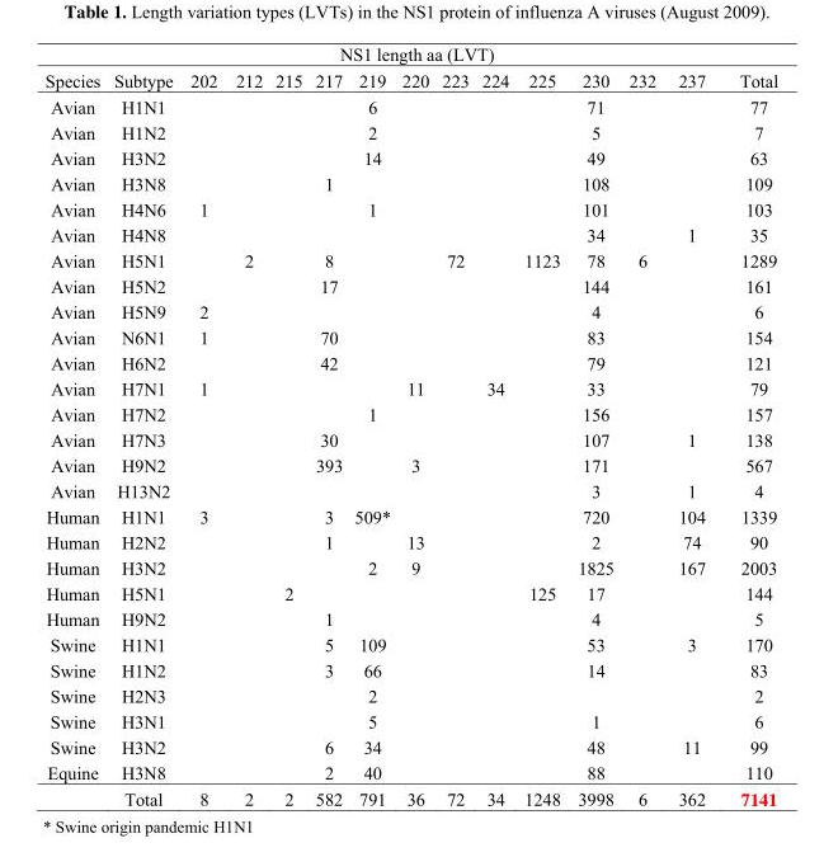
<table><thead><tr><td colspan="15">NS1 length aa (LVT)</td></tr><tr><td>Species</td><td>Subtype</td><td>202</td><td>212</td><td>215</td><td>217</td><td>219</td><td>220</td><td>223</td><td>224</td><td>225</td><td>230</td><td>232</td><td>237</td><td>Total</td></tr></thead><tbody><tr><td>Avian</td><td>H1N1</td><td></td><td></td><td></td><td></td><td>6</td><td></td><td></td><td></td><td></td><td>71</td><td></td><td></td><td>77</td></tr><tr><td>Avian</td><td>H1N2</td><td></td><td></td><td></td><td></td><td>2</td><td></td><td></td><td></td><td></td><td>5</td><td></td><td></td><td>7</td></tr><tr><td>Avian</td><td>H3N2</td><td></td><td></td><td></td><td></td><td>14</td><td></td><td></td><td></td><td></td><td>49</td><td></td><td></td><td>63</td></tr><tr><td>Avian</td><td>H3N8</td><td></td><td></td><td></td><td>1</td><td></td><td></td><td></td><td></td><td></td><td>108</td><td></td><td></td><td>109</td></tr><tr><td>Avian</td><td>H4N6</td><td>1</td><td></td><td></td><td></td><td>1</td><td></td><td></td><td></td><td></td><td>101</td><td></td><td></td><td>103</td></tr><tr><td>Avian</td><td>H4N8</td><td></td><td></td><td></td><td></td><td></td><td></td><td></td><td></td><td></td><td>34</td><td></td><td>1</td><td>35</td></tr><tr><td>Avian</td><td>H5N1</td><td></td><td>2</td><td></td><td>8</td><td></td><td></td><td>72</td><td></td><td>1123</td><td>78</td><td>6</td><td></td><td>1289</td></tr><tr><td>Avian</td><td>H5N2</td><td></td><td></td><td></td><td>17</td><td></td><td></td><td></td><td></td><td></td><td>144</td><td></td><td></td><td>161</td></tr><tr><td>Avian</td><td>H5N9</td><td>2</td><td></td><td></td><td></td><td></td><td></td><td></td><td></td><td></td><td>4</td><td></td><td></td><td>6</td></tr><tr><td>Avian</td><td>N6N1</td><td>1</td><td></td><td></td><td>70</td><td></td><td></td><td></td><td></td><td></td><td>83</td><td></td><td></td><td>154</td></tr><tr><td>Avian</td><td>H6N2</td><td></td><td></td><td></td><td>42</td><td></td><td></td><td></td><td></td><td></td><td>79</td><td></td><td></td><td>121</td></tr><tr><td>Avian</td><td>H7N1</td><td>1</td><td></td><td></td><td></td><td></td><td>11</td><td></td><td>34</td><td></td><td>33</td><td></td><td></td><td>79</td></tr><tr><td>Avian</td><td>H7N2</td><td></td><td></td><td></td><td></td><td>1</td><td></td><td></td><td></td><td></td><td>156</td><td></td><td></td><td>157</td></tr><tr><td>Avian</td><td>H7N3</td><td></td><td></td><td></td><td>30</td><td></td><td></td><td></td><td></td><td></td><td>107</td><td></td><td>1</td><td>138</td></tr><tr><td>Avian</td><td>H9N2</td><td></td><td></td><td></td><td>393</td><td></td><td>3</td><td></td><td></td><td></td><td>171</td><td></td><td></td><td>567</td></tr><tr><td>Avian</td><td>H13N2</td><td></td><td></td><td></td><td></td><td></td><td></td><td></td><td></td><td></td><td>3</td><td></td><td>1</td><td>4</td></tr><tr><td>Human</td><td>H1N1</td><td>3</td><td></td><td></td><td>3</td><td>509*</td><td></td><td></td><td></td><td></td><td>720</td><td></td><td>104</td><td>1339</td></tr><tr><td>Human</td><td>H2N2</td><td></td><td></td><td></td><td>1</td><td></td><td>13</td><td></td><td></td><td></td><td>2</td><td></td><td>74</td><td>90</td></tr><tr><td>Human</td><td>H3N2</td><td></td><td></td><td></td><td></td><td>2</td><td>9</td><td></td><td></td><td></td><td>1825</td><td></td><td>167</td><td>2003</td></tr><tr><td>Human</td><td>H5N1</td><td></td><td></td><td>2</td><td></td><td></td><td></td><td></td><td></td><td>125</td><td>17</td><td></td><td></td><td>144</td></tr><tr><td>Human</td><td>H9N2</td><td></td><td></td><td></td><td>1</td><td></td><td></td><td></td><td></td><td></td><td>4</td><td></td><td></td><td>5</td></tr><tr><td>Swine</td><td>H1N1</td><td></td><td></td><td></td><td>5</td><td>109</td><td></td><td></td><td></td><td></td><td>53</td><td></td><td>3</td><td>170</td></tr><tr><td>Swine</td><td>H1N2</td><td></td><td></td><td></td><td>3</td><td>66</td><td></td><td></td><td></td><td></td><td>14</td><td></td><td></td><td>83</td></tr><tr><td>Swine</td><td>H2N3</td><td></td><td></td><td></td><td></td><td>2</td><td></td><td></td><td></td><td></td><td></td><td></td><td></td><td>2</td></tr><tr><td>Swine</td><td>H3N1</td><td></td><td></td><td></td><td></td><td>5</td><td></td><td></td><td></td><td></td><td>1</td><td></td><td></td><td>6</td></tr><tr><td>Swine</td><td>H3N2</td><td></td><td></td><td></td><td>6</td><td>34</td><td></td><td></td><td></td><td></td><td>48</td><td></td><td>11</td><td>99</td></tr><tr><td rowspan="2">Equine</td><td>H3N8</td><td></td><td></td><td></td><td>2</td><td>40</td><td></td><td></td><td></td><td></td><td>88</td><td></td><td></td><td>110</td></tr><tr><td>Total</td><td>8</td><td>2</td><td>2</td><td>582</td><td>791</td><td>36</td><td>72</td><td>34</td><td>1248</td><td>3998</td><td>6</td><td>362</td><td>7141</td></tr></tbody></table>